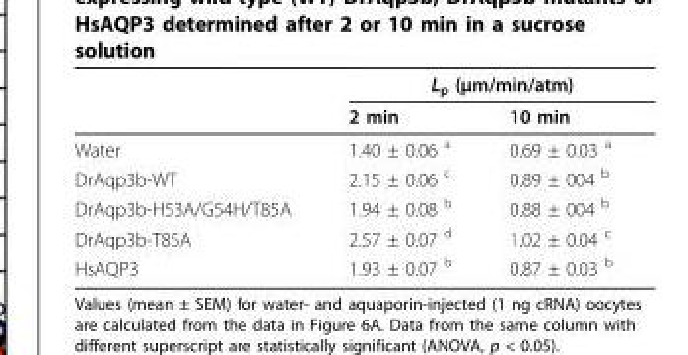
<table><thead><tr><td rowspan="2"></td><td colspan="2">L<sub>p</sub> (μm/min/atm)</td></tr><tr><td>2 min</td><td>10 min</td></tr></thead><tbody><tr><td>Water</td><td>1.40 ± 0.06 <sup>a</sup></td><td>0.69 ± 0.03 <sup>a</sup></td></tr><tr><td>DrAqp3b-WT</td><td>2.15 ± 0.06 <sup>c</sup></td><td>0.89 ± 004 <sup>b</sup></td></tr><tr><td>DrAqp3b-H53A/G54H/T85A</td><td>1.94 ± 0.08 <sup>b</sup></td><td>0.88 ± 004 <sup>b</sup></td></tr><tr><td>DrAqp3b-T85A</td><td>2.57 ± 0.07 <sup>d</sup></td><td>1.02 ± 0.04 <sup>c</sup></td></tr><tr><td>HsAQP3</td><td>1.93 ± 0.07 <sup>b</sup></td><td>0.87 ± 0.03 <sup>b</sup></td></tr></tbody></table>